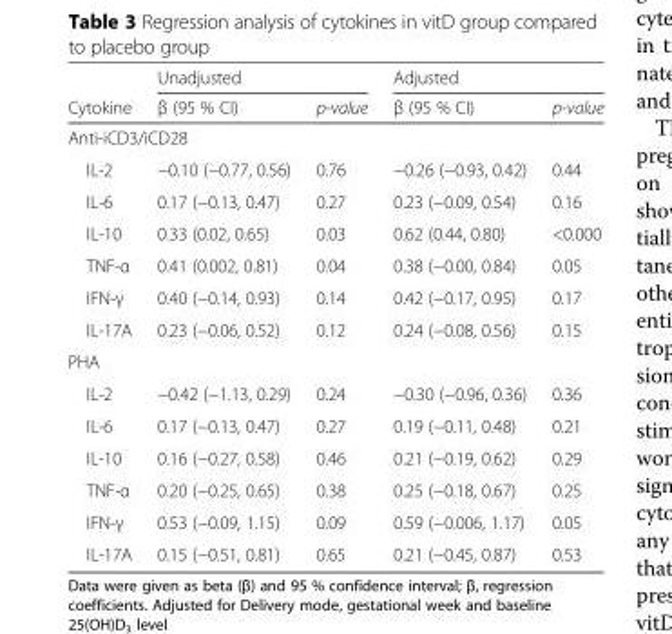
<table><thead><tr><td rowspan="2">Cytokine</td><td colspan="2">Unadjusted</td><td colspan="2">Adjusted</td></tr><tr><td>β (95 % CI)</td><td>p-value</td><td>β (95 % CI)</td><td>p-value</td></tr></thead><tbody><tr><td colspan="5">Anti-iCD3/iCD28</td></tr><tr><td>IL-2</td><td>−0.10 (−0.77, 0.56)</td><td>0.76</td><td>−0.26 (−0.93, 0.42)</td><td>0.44</td></tr><tr><td>IL-6</td><td>0.17 (−0.13, 0.47)</td><td>0.27</td><td>0.23 (−0.09, 0.54)</td><td>0.16</td></tr><tr><td>IL-10</td><td>0.33 (0.02, 0.65)</td><td>0.03</td><td>0.62 (0.44, 0.80)</td><td>&lt;0.000</td></tr><tr><td>TNF-α</td><td>0.41 (0.002, 0.81)</td><td>0.04</td><td>0.38 (−0.00, 0.84)</td><td>0.05</td></tr><tr><td>IFN-γ</td><td>0.40 (−0.14, 0.93)</td><td>0.14</td><td>0.42 (−0.17, 0.95)</td><td>0.17</td></tr><tr><td>IL-17A</td><td>0.23 (−0.06, 0.52)</td><td>0.12</td><td>0.24 (−0.08, 0.56)</td><td>0.15</td></tr><tr><td colspan="5">PHA</td></tr><tr><td>IL-2</td><td>−0.42 (−1.13, 0.29)</td><td>0.24</td><td>−0.30 (−0.96, 0.36)</td><td>0.36</td></tr><tr><td>IL-6</td><td>0.17 (−0.13, 0.47)</td><td>0.27</td><td>0.19 (−0.11, 0.48)</td><td>0.21</td></tr><tr><td>IL-10</td><td>0.16 (−0.27, 0.58)</td><td>0.46</td><td>0.21 (−0.19, 0.62)</td><td>0.29</td></tr><tr><td>TNF-α</td><td>0.20 (−0.25, 0.65)</td><td>0.38</td><td>0.25 (−0.18, 0.67)</td><td>0.25</td></tr><tr><td>IFN-γ</td><td>0.53 (−0.09, 1.15)</td><td>0.09</td><td>0.59 (−0.006, 1.17)</td><td>0.05</td></tr><tr><td>IL-17A</td><td>0.15 (−0.51, 0.81)</td><td>0.65</td><td>0.21 (−0.45, 0.87)</td><td>0.53</td></tr></tbody></table>